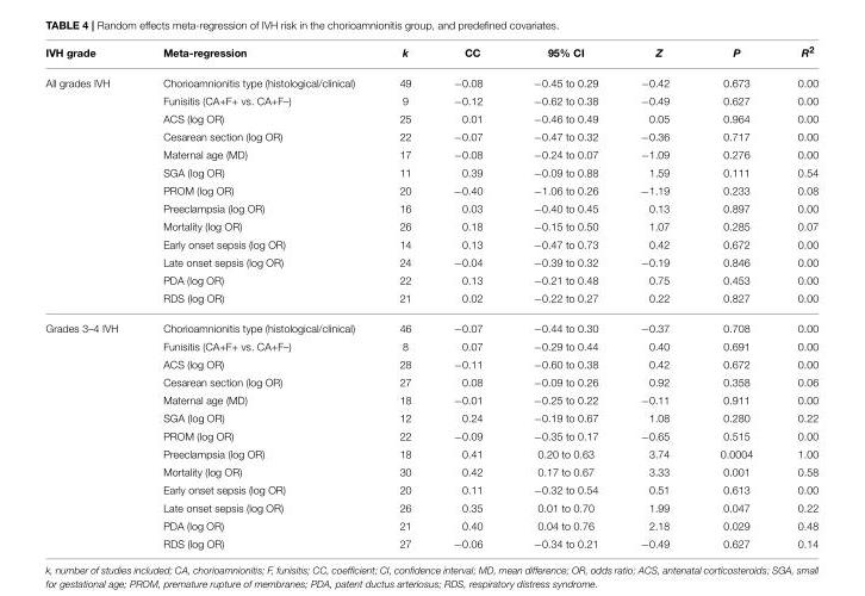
<table><thead><tr><td>IVH grade</td><td>Meta-regression</td><td>k</td><td>CC</td><td>95% CI</td><td>Z</td><td>P</td><td>R<sup>2</sup></td></tr></thead><tbody><tr><td rowspan="13">All grades IVH</td><td>Chorioamnionitis type (histological/clinical)</td><td>49</td><td>−0.08</td><td>−0.45 to 0.29</td><td>−0.42</td><td>0.673</td><td>0.00</td></tr><tr><td>Funisitis (CA+F+ vs. CA+F–)</td><td>9</td><td>−0.12</td><td>−0.62 to 0.38</td><td>−0.49</td><td>0.627</td><td>0.00</td></tr><tr><td>ACS (log OR)</td><td>25</td><td>0.01</td><td>−0.46 to 0.49</td><td>0.05</td><td>0.964</td><td>0.00</td></tr><tr><td>Cesarean section (log OR)</td><td>22</td><td>−0.07</td><td>−0.47 to 0.32</td><td>−0.36</td><td>0.717</td><td>0.00</td></tr><tr><td>Maternal age (MD)</td><td>17</td><td>−0.08</td><td>−0.24 to 0.07</td><td>−1.09</td><td>0.276</td><td>0.00</td></tr><tr><td>SGA (log OR)</td><td>11</td><td>0.39</td><td>−0.09 to 0.88</td><td>1.59</td><td>0.111</td><td>0.54</td></tr><tr><td>PROM (log OR)</td><td>20</td><td>−0.40</td><td>−1.06 to 0.26</td><td>−1.19</td><td>0.233</td><td>0.08</td></tr><tr><td>Preeclampsia (log OR)</td><td>16</td><td>0.03</td><td>−0.40 to 0.45</td><td>0.13</td><td>0.897</td><td>0.00</td></tr><tr><td>Mortality (log OR)</td><td>26</td><td>0.18</td><td>−0.15 to 0.50</td><td>1.07</td><td>0.285</td><td>0.07</td></tr><tr><td>Early onset sepsis (log OR)</td><td>14</td><td>0.13</td><td>−0.47 to 0.73</td><td>0.42</td><td>0.672</td><td>0.00</td></tr><tr><td>Late onset sepsis (log OR)</td><td>24</td><td>−0.04</td><td>−0.39 to 0.32</td><td>−0.19</td><td>0.846</td><td>0.00</td></tr><tr><td>PDA (log OR)</td><td>22</td><td>0.13</td><td>−0.21 to 0.48</td><td>0.75</td><td>0.453</td><td>0.00</td></tr><tr><td>RDS (log OR)</td><td>21</td><td>0.02</td><td>−0.22 to 0.27</td><td>0.22</td><td>0.827</td><td>0.00</td></tr><tr><td rowspan="13">Grades 3–4 IVH</td><td>Chorioamnionitis type (histological/clinical)</td><td>46</td><td>−0.07</td><td>−0.44 to 0.30</td><td>−0.37</td><td>0.708</td><td>0.00</td></tr><tr><td>Funisitis (CA+F+ vs. CA+F–)</td><td>8</td><td>0.07</td><td>−0.29 to 0.44</td><td>0.40</td><td>0.691</td><td>0.00</td></tr><tr><td>ACS (log OR)</td><td>28</td><td>−0.11</td><td>−0.60 to 0.38</td><td>0.42</td><td>0.672</td><td>0.00</td></tr><tr><td>Cesarean section (log OR)</td><td>27</td><td>0.08</td><td>−0.09 to 0.26</td><td>0.92</td><td>0.358</td><td>0.06</td></tr><tr><td>Maternal age (MD)</td><td>18</td><td>−0.01</td><td>−0.25 to 0.22</td><td>−0.11</td><td>0.911</td><td>0.00</td></tr><tr><td>SGA (log OR)</td><td>12</td><td>0.24</td><td>−0.19 to 0.67</td><td>1.08</td><td>0.280</td><td>0.22</td></tr><tr><td>PROM (log OR)</td><td>22</td><td>−0.09</td><td>−0.35 to 0.17</td><td>−0.65</td><td>0.515</td><td>0.00</td></tr><tr><td>Preeclampsia (log OR)</td><td>18</td><td>0.41</td><td>0.20 to 0.63</td><td>3.74</td><td>0.0004</td><td>1.00</td></tr><tr><td>Mortality (log OR)</td><td>30</td><td>0.42</td><td>0.17 to 0.67</td><td>3.33</td><td>0.001</td><td>0.58</td></tr><tr><td>Early onset sepsis (log OR)</td><td>20</td><td>0.11</td><td>−0.32 to 0.54</td><td>0.51</td><td>0.613</td><td>0.00</td></tr><tr><td>Late onset sepsis (log OR)</td><td>26</td><td>0.35</td><td>0.01 to 0.70</td><td>1.99</td><td>0.047</td><td>0.22</td></tr><tr><td>PDA (log OR)</td><td>21</td><td>0.40</td><td>0.04 to 0.76</td><td>2.18</td><td>0.029</td><td>0.48</td></tr><tr><td>RDS (log OR)</td><td>27</td><td>−0.06</td><td>−0.34 to 0.21</td><td>−0.49</td><td>0.627</td><td>0.14</td></tr></tbody></table>